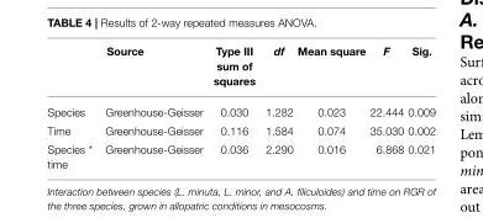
<table><thead><tr><td></td><td>Source</td><td>Type III sum of squares</td><td>df</td><td>Mean square</td><td>F</td><td>Sig.</td></tr></thead><tbody><tr><td>Species</td><td>Greenhouse-Geisser</td><td>0.030</td><td>1.282</td><td>0.023</td><td>22.444</td><td>0.009</td></tr><tr><td>Time</td><td>Greenhouse-Geisser</td><td>0.116</td><td>1.584</td><td>0.074</td><td>35.030</td><td>0.002</td></tr><tr><td>Species * time</td><td>Greenhouse-Geisser</td><td>0.036</td><td>2.290</td><td>0.016</td><td>6.868</td><td>0.021</td></tr></tbody></table>